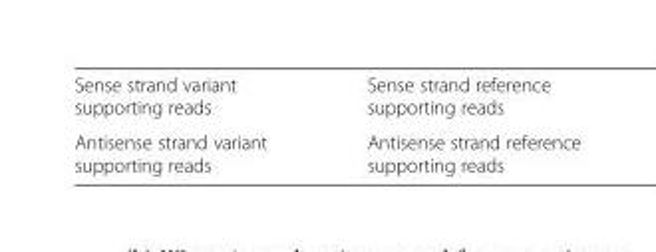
<table><tbody><tr><td>Sense strand variant supporting reads</td><td>Sense strand reference supporting reads</td></tr><tr><td>Antisense strand variant supporting reads</td><td>Antisense strand reference supporting reads</td></tr></tbody></table>